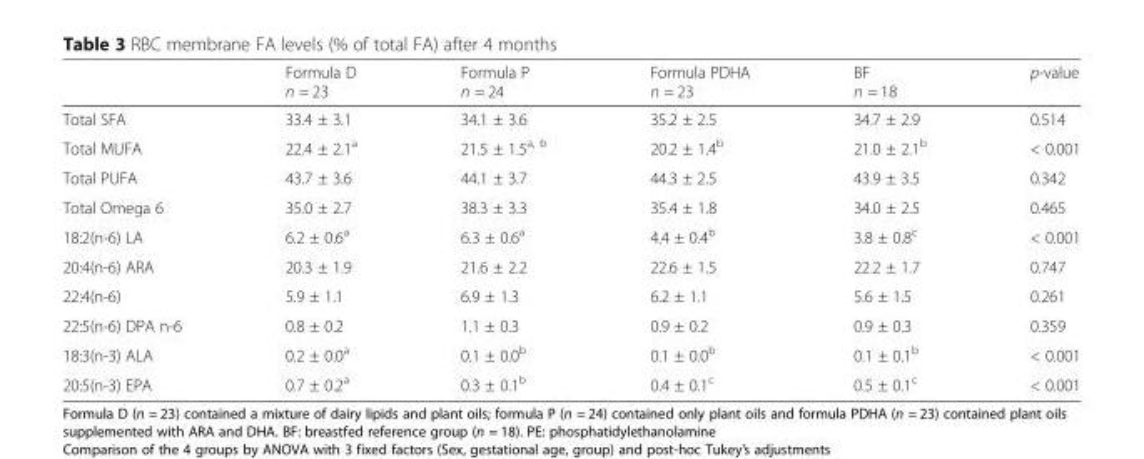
<table><thead><tr><td></td><td>Formula D n = 23</td><td>Formula P n = 24</td><td>Formula PDHA n = 23</td><td>BF n = 18</td><td>p-value</td></tr></thead><tbody><tr><td>Total SFA</td><td>33.4 ± 3.1</td><td>34.1 ± 3.6</td><td>35.2 ± 2.5</td><td>34.7 ± 2.9</td><td>0.514</td></tr><tr><td>Total MUFA</td><td>22.4 ± 2.1<sup>a</sup></td><td>21.5 ± 1.5<sup>a, b</sup></td><td>20.2 ± 1.4<sup>b</sup></td><td>21.0 ± 2.1<sup>b</sup></td><td>&lt; 0.001</td></tr><tr><td>Total PUFA</td><td>43.7 ± 3.6</td><td>44.1 ± 3.7</td><td>44.3 ± 2.5</td><td>43.9 ± 3.5</td><td>0.342</td></tr><tr><td>Total Omega 6</td><td>35.0 ± 2.7</td><td>38.3 ± 3.3</td><td>35.4 ± 1.8</td><td>34.0 ± 2.5</td><td>0.465</td></tr><tr><td>18:2(n-6) LA</td><td>6.2 ± 0.6<sup>a</sup></td><td>6.3 ± 0.6<sup>a</sup></td><td>4.4 ± 0.4<sup>b</sup></td><td>3.8 ± 0.8<sup>c</sup></td><td>&lt; 0.001</td></tr><tr><td>20:4(n-6) ARA</td><td>20.3 ± 1.9</td><td>21.6 ± 2.2</td><td>22.6 ± 1.5</td><td>22.2 ± 1.7</td><td>0.747</td></tr><tr><td>22:4(n-6)</td><td>5.9 ± 1.1</td><td>6.9 ± 1.3</td><td>6.2 ± 1.1</td><td>5.6 ± 1.5</td><td>0.261</td></tr><tr><td>22:5(n-6) DPA n-6</td><td>0.8 ± 0.2</td><td>1.1 ± 0.3</td><td>0.9 ± 0.2</td><td>0.9 ± 0.3</td><td>0.359</td></tr><tr><td>18:3(n-3) ALA</td><td>0.2 ± 0.0<sup>a</sup></td><td>0.1 ± 0.0<sup>b</sup></td><td>0.1 ± 0.0<sup>b</sup></td><td>0.1 ± 0.1<sup>b</sup></td><td>&lt; 0.001</td></tr><tr><td>20:5(n-3) EPA</td><td>0.7 ± 0.2<sup>a</sup></td><td>0.3 ± 0.1<sup>b</sup></td><td>0.4 ± 0.1<sup>c</sup></td><td>0.5 ± 0.1<sup>c</sup></td><td>&lt; 0.001</td></tr></tbody></table>